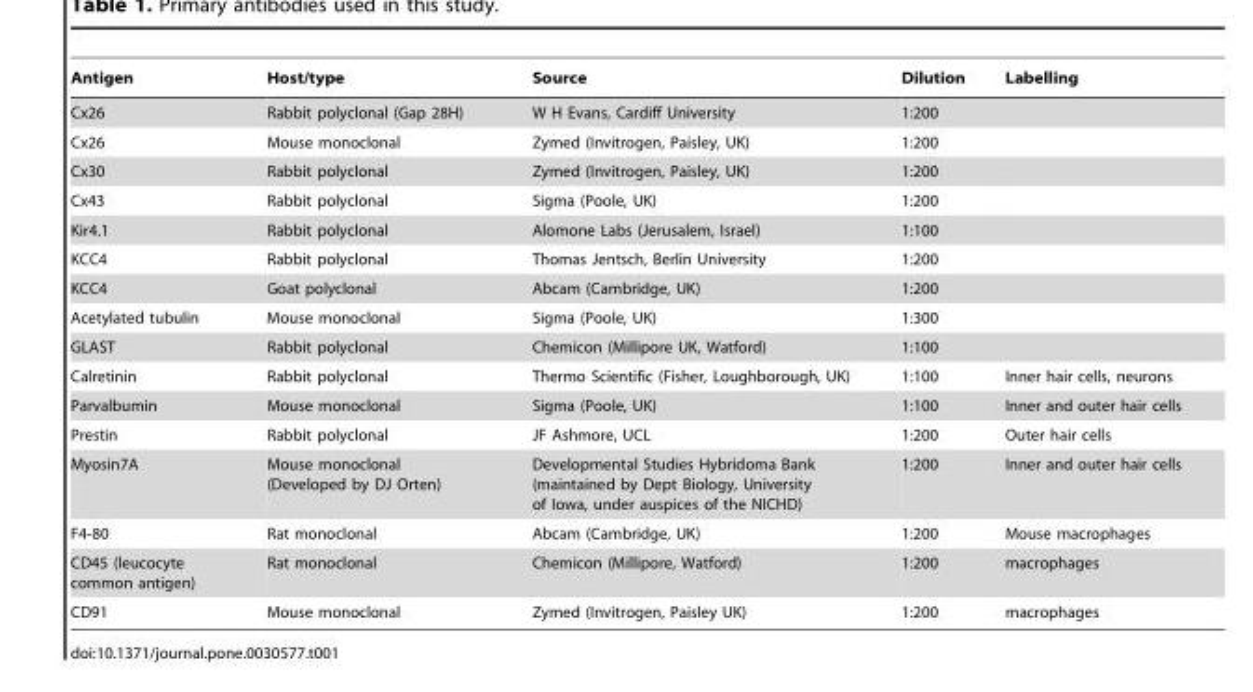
<table><thead><tr><td>Antigen</td><td>Host/type</td><td>Source</td><td>Dilution</td><td>Labelling</td></tr></thead><tbody><tr><td>Cx26</td><td>Rabbit polyclonal (Gap 28H)</td><td>W H Evans, Cardiff University</td><td>1:200</td><td></td></tr><tr><td>Cx26</td><td>Mouse monoclonal</td><td>Zymed (Invitrogen, Paisley, UK)</td><td>1:200</td><td></td></tr><tr><td>Cx30</td><td>Rabbit polyclonal</td><td>Zymed (Invitrogen, Paisley, UK)</td><td>1:200</td><td></td></tr><tr><td>Cx43</td><td>Rabbit polyclonal</td><td>Sigma (Poole, UK)</td><td>1:200</td><td></td></tr><tr><td>Kir4.1</td><td>Rabbit polyclonal</td><td>Alomone Labs (Jerusalem, Israel)</td><td>1:100</td><td></td></tr><tr><td>KCC4</td><td>Rabbit polyclonal</td><td>Thomas Jentsch, Berlin University</td><td>1:200</td><td></td></tr><tr><td>KCC4</td><td>Goat polyclonal</td><td>Abcam (Cambridge, UK)</td><td>1:200</td><td></td></tr><tr><td>Acetylated tubulin</td><td>Mouse monoclonal</td><td>Sigma (Poole, UK)</td><td>1:300</td><td></td></tr><tr><td>GLAST</td><td>Rabbit polyclonal</td><td>Chemicon (Millipore UK, Watford)</td><td>1:100</td><td></td></tr><tr><td>Calretinin</td><td>Rabbit polyclonal</td><td>Thermo Scientific (Fisher, Loughborough, UK)</td><td>1:100</td><td>Inner hair cells, neurons</td></tr><tr><td>Parvalbumin</td><td>Mouse monoclonal</td><td>Sigma (Poole, UK)</td><td>1:100</td><td>Inner and outer hair cells</td></tr><tr><td>Prestin</td><td>Rabbit polyclonal</td><td>JF Ashmore, UCL</td><td>1:200</td><td>Outer hair cells</td></tr><tr><td>Myosin7A</td><td>Mouse monoclonal (Developed by DJ Orten)</td><td>Developmental Studies Hybridoma Bank (maintained by Dept Biology, University of Iowa, under auspices of the NICHD)</td><td>1:200</td><td>Inner and outer hair cells</td></tr><tr><td>F4-80</td><td>Rat monoclonal</td><td>Abcam (Cambridge, UK)</td><td>1:200</td><td>Mouse macrophages</td></tr><tr><td>CD45 (leucocyte common antigen)</td><td>Rat monoclonal</td><td>Chemicon (Millipore, Watford)</td><td>1:200</td><td>macrophages</td></tr><tr><td>CD91</td><td>Mouse monoclonal</td><td>Zymed (Invitrogen, Paisley UK)</td><td>1:200</td><td>macrophages</td></tr></tbody></table>